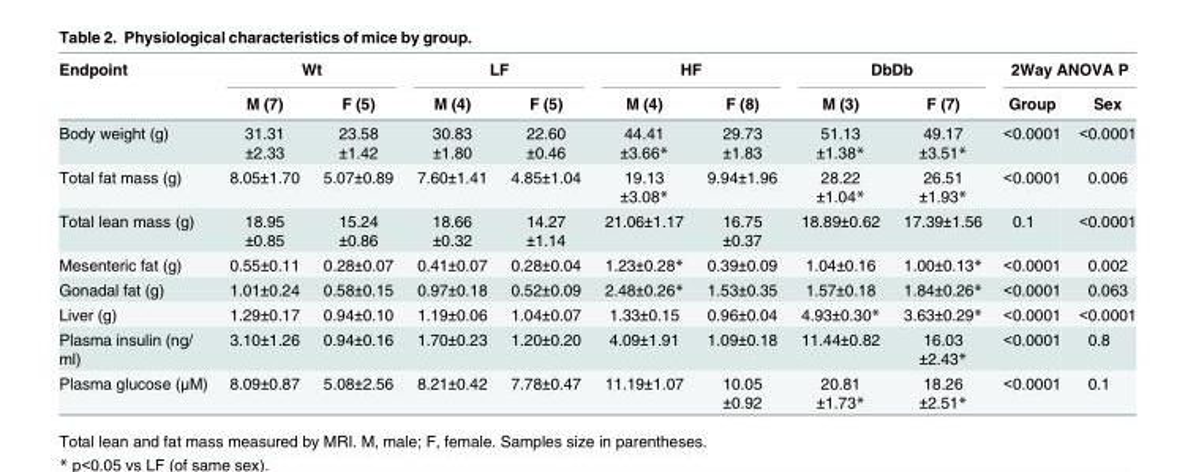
<table><thead><tr><td rowspan="2">Endpoint</td><td colspan="2">Wt</td><td colspan="2">LF</td><td colspan="2">HF</td><td colspan="2">DbDb</td><td colspan="2">2Way ANOVA P</td></tr><tr><td>M (7)</td><td>F (5)</td><td>M (4)</td><td>F (5)</td><td>M (4)</td><td>F (8)</td><td>M (3)</td><td>F (7)</td><td>Group</td><td>Sex</td></tr></thead><tbody><tr><td>Body weight (g)</td><td>31.31 ±2.33</td><td>23.58 ±1.42</td><td>30.83 ±1.80</td><td>22.60 ±0.46</td><td>44.41 ±3.66*</td><td>29.73 ±1.83</td><td>51.13 ±1.38*</td><td>49.17 ±3.51*</td><td>&lt;0.0001</td><td>&lt;0.0001</td></tr><tr><td>Total fat mass (g)</td><td>8.05±1.70</td><td>5.07±0.89</td><td>7.60±1.41</td><td>4.85±1.04</td><td>19.13 ±3.08*</td><td>9.94±1.96</td><td>28.22 ±1.04*</td><td>26.51 ±1.93*</td><td>&lt;0.0001</td><td>0.006</td></tr><tr><td>Total lean mass (g)</td><td>18.95 ±0.85</td><td>15.24 ±0.86</td><td>18.66 ±0.32</td><td>14.27 ±1.14</td><td>21.06±1.17</td><td>16.75 ±0.37</td><td>18.89±0.62</td><td>17.39±1.56</td><td>0.1</td><td>&lt;0.0001</td></tr><tr><td>Mesenteric fat (g)</td><td>0.55±0.11</td><td>0.28±0.07</td><td>0.41±0.07</td><td>0.28±0.04</td><td>1.23±0.28*</td><td>0.39±0.09</td><td>1.04±0.16</td><td>1.00±0.13*</td><td>&lt;0.0001</td><td>0.002</td></tr><tr><td>Gonadal fat (g)</td><td>1.01±0.24</td><td>0.58±0.15</td><td>0.97±0.18</td><td>0.52±0.09</td><td>2.48±0.26*</td><td>1.53±0.35</td><td>1.57±0.18</td><td>1.84±0.26*</td><td>&lt;0.0001</td><td>0.063</td></tr><tr><td>Liver (g)</td><td>1.29±0.17</td><td>0.94±0.10</td><td>1.19±0.06</td><td>1.04±0.07</td><td>1.33±0.15</td><td>0.96±0.04</td><td>4.93±0.30*</td><td>3.63±0.29*</td><td>&lt;0.0001</td><td>&lt;0.0001</td></tr><tr><td>Plasma insulin (ng/ ml)</td><td>3.10±1.26</td><td>0.94±0.16</td><td>1.70±0.23</td><td>1.20±0.20</td><td>4.09±1.91</td><td>1.09±0.18</td><td>11.44±0.82</td><td>16.03 ±2.43*</td><td>&lt;0.0001</td><td>0.8</td></tr><tr><td>Plasma glucose (μM)</td><td>8.09±0.87</td><td>5.08±2.56</td><td>8.21±0.42</td><td>7.78±0.47</td><td>11.19±1.07</td><td>10.05 ±0.92</td><td>20.81 ±1.73*</td><td>18.26 ±2.51*</td><td>&lt;0.0001</td><td>0.1</td></tr></tbody></table>